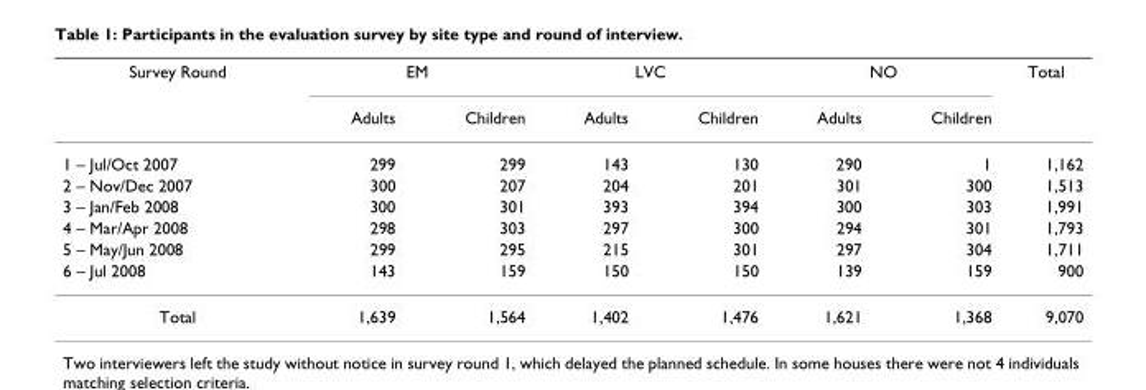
<table><thead><tr><td rowspan="2">Survey Round</td><td colspan="2">EM</td><td colspan="2">LVC</td><td colspan="2">NO</td><td rowspan="2">Total</td></tr><tr><td>Adults</td><td>Children</td><td>Adults</td><td>Children</td><td>Adults</td><td>Children</td></tr></thead><tbody><tr><td>1 – Jul/Oct 2007</td><td>299</td><td>299</td><td>143</td><td>130</td><td>290</td><td>1</td><td>1,162</td></tr><tr><td>2 – Nov/Dec 2007</td><td>300</td><td>207</td><td>204</td><td>201</td><td>301</td><td>300</td><td>1,513</td></tr><tr><td>3 – Jan/Feb 2008</td><td>300</td><td>301</td><td>393</td><td>394</td><td>300</td><td>303</td><td>1,991</td></tr><tr><td>4 – Mar/Apr 2008</td><td>298</td><td>303</td><td>297</td><td>300</td><td>294</td><td>301</td><td>1,793</td></tr><tr><td>5 – May/Jun 2008</td><td>299</td><td>295</td><td>215</td><td>301</td><td>297</td><td>304</td><td>1,711</td></tr><tr><td>6 – Jul 2008</td><td>143</td><td>159</td><td>150</td><td>150</td><td>139</td><td>159</td><td>900</td></tr><tr><td>Total</td><td>1,639</td><td>1,564</td><td>1,402</td><td>1,476</td><td>1,621</td><td>1,368</td><td>9,070</td></tr></tbody></table>